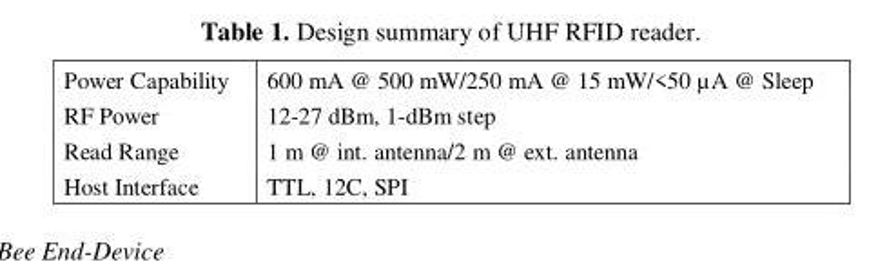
<table><tbody><tr><td>Power Capability</td><td>600 mA @ 500 mW/250 mA @ 15 mW/&lt;50 µA @ Sleep</td></tr><tr><td>RF Power</td><td>12-27 dBm, 1-dBm step</td></tr><tr><td>Read Range</td><td>1 m @ int. antenna/2 m @ ext. antenna</td></tr><tr><td>Host Interface</td><td>TTL, 12C, SPI</td></tr></tbody></table>